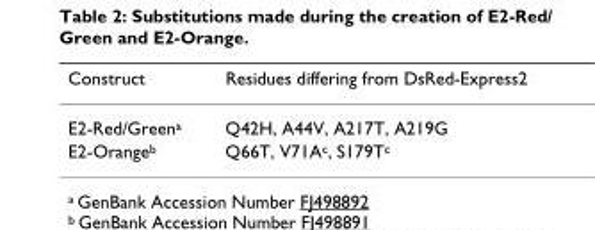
<table><thead><tr><td>Construct</td><td>Residues differing from DsRed-Express2</td></tr></thead><tbody><tr><td>E2-Red/Green<sup>a</sup></td><td>Q42H, A44V, A217T, A219G</td></tr><tr><td>E2-Orange<sup>b</sup></td><td>Q66T, V71A<sup>c</sup>, S179T<sup>c</sup></td></tr></tbody></table>